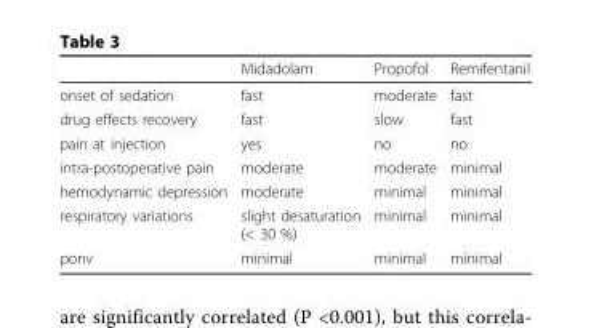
<table><thead><tr><td></td><td>Midadolam</td><td>Propofol</td><td>Remifentanil</td></tr></thead><tbody><tr><td>onset of sedation</td><td>fast</td><td>moderate</td><td>fast</td></tr><tr><td>drug effects recovery</td><td>fast</td><td>slow</td><td>fast</td></tr><tr><td>pain at injection</td><td>yes</td><td>no</td><td>no</td></tr><tr><td>intra-postoperative pain</td><td>moderate</td><td>moderate</td><td>minimal</td></tr><tr><td>hemodynamic depression</td><td>moderate</td><td>minimal</td><td>minimal</td></tr><tr><td>respiratory variations</td><td>slight desaturation (&lt; 30 %)</td><td>minimal</td><td>minimal</td></tr><tr><td>ponv</td><td>minimal</td><td>minimal</td><td>minimal</td></tr></tbody></table>